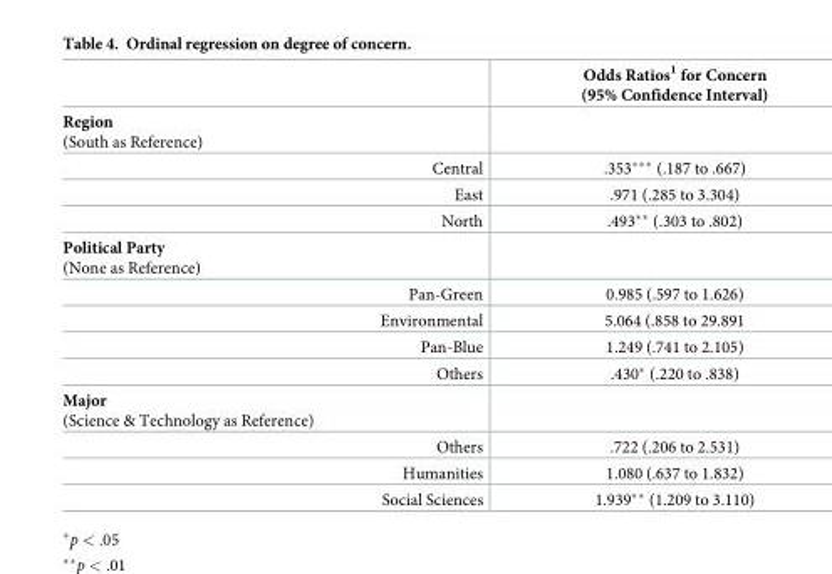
<table><thead><tr><td></td><td>Odds Ratios<sup>1</sup> for Concern (95% Confidence Interval)</td></tr></thead><tbody><tr><td colspan="2">Region (South as Reference)</td></tr><tr><td>Central</td><td>.353*** (.187 to .667)</td></tr><tr><td>East</td><td>.971 (.285 to 3.304)</td></tr><tr><td>North</td><td>.493** (.303 to .802)</td></tr><tr><td colspan="2">Political Party (None as Reference)</td></tr><tr><td>Pan-Green</td><td>0.985 (.597 to 1.626)</td></tr><tr><td>Environmental</td><td>5.064 (.858 to 29.891</td></tr><tr><td>Pan-Blue</td><td>1.249 (.741 to 2.105)</td></tr><tr><td>Others</td><td>.430* (.220 to .838)</td></tr><tr><td colspan="2">Major (Science &amp; Technology as Reference)</td></tr><tr><td>Others</td><td>.722 (.206 to 2.531)</td></tr><tr><td>Humanities</td><td>1.080 (.637 to 1.832)</td></tr><tr><td>Social Sciences</td><td>1.939** (1.209 to 3.110)</td></tr></tbody></table>